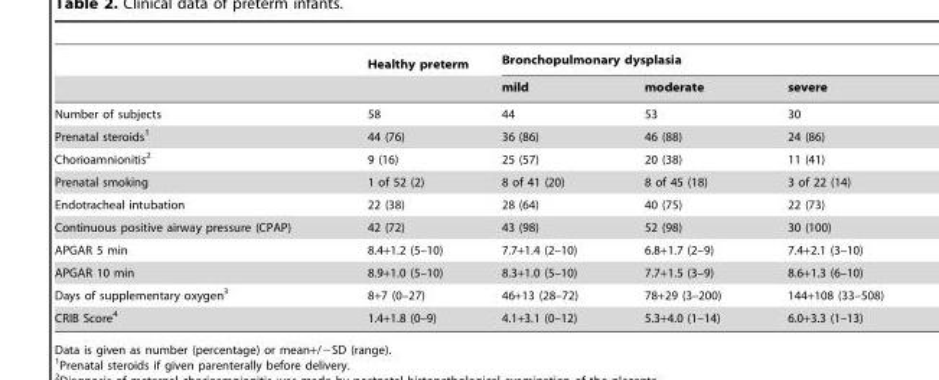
<table><thead><tr><td rowspan="2"></td><td rowspan="2">Healthy preterm</td><td colspan="3">Bronchopulmonary dysplasia</td></tr><tr><td>mild</td><td>moderate</td><td>severe</td></tr></thead><tbody><tr><td>Number of subjects</td><td>58</td><td>44</td><td>53</td><td>30</td></tr><tr><td>Prenatal steroids<sup>1</sup></td><td>44 (76)</td><td>36 (86)</td><td>46 (88)</td><td>24 (86)</td></tr><tr><td>Chorioamnionitis<sup>2</sup></td><td>9 (16)</td><td>25 (57)</td><td>20 (38)</td><td>11 (41)</td></tr><tr><td>Prenatal smoking</td><td>1 of 52 (2)</td><td>8 of 41 (20)</td><td>8 of 45 (18)</td><td>3 of 22 (14)</td></tr><tr><td>Endotracheal intubation</td><td>22 (38)</td><td>28 (64)</td><td>40 (75)</td><td>22 (73)</td></tr><tr><td>Continuous positive airway pressure (CPAP)</td><td>42 (72)</td><td>43 (98)</td><td>52 (98)</td><td>30 (100)</td></tr><tr><td>APGAR 5 min</td><td>8.4+1.2 (5–10)</td><td>7.7+1.4 (2–10)</td><td>6.8+1.7 (2–9)</td><td>7.4+2.1 (3–10)</td></tr><tr><td>APGAR 10 min</td><td>8.9+1.0 (5–10)</td><td>8.3+1.0 (5–10)</td><td>7.7+1.5 (3–9)</td><td>8.6+1.3 (6–10)</td></tr><tr><td>Days of supplementary oxygen<sup>3</sup></td><td>8+7 (0–27)</td><td>46+13 (28–72)</td><td>78+29 (3–200)</td><td>144+108 (33–508)</td></tr><tr><td>CRIB Score<sup>4</sup></td><td>1.4+1.8 (0–9)</td><td>4.1+3.1 (0–12)</td><td>5.3+4.0 (1–14)</td><td>6.0+3.3 (1–13)</td></tr></tbody></table>